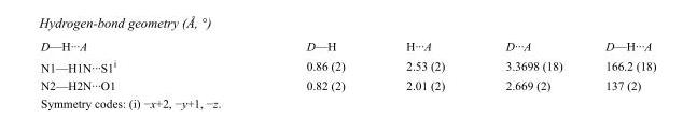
<table><tbody><tr><td>D—H···A</td><td>D—H</td><td>H···A</td><td>D···A</td><td>D—H···A</td></tr><tr><td>N1—H1N···S1<sup>i</sup></td><td>0.86 (2)</td><td>2.53 (2)</td><td>3.3698 (18)</td><td>166.2 (18)</td></tr><tr><td>N2—H2N···O1</td><td>0.82 (2)</td><td>2.01 (2)</td><td>2.669 (2)</td><td>137 (2)</td></tr></tbody></table>